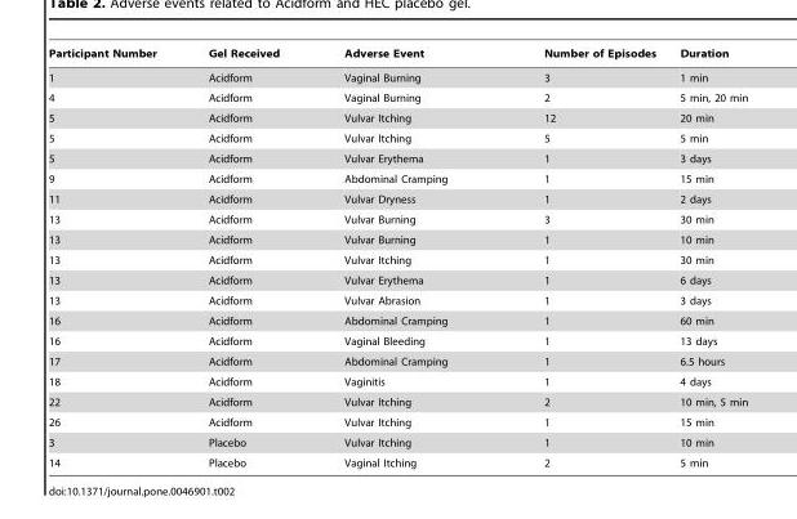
<table><thead><tr><td>Participant Number</td><td>Gel Received</td><td>Adverse Event</td><td>Number of Episodes</td><td>Duration</td></tr></thead><tbody><tr><td>1</td><td>Acidform</td><td>Vaginal Burning</td><td>3</td><td>1 min</td></tr><tr><td>4</td><td>Acidform</td><td>Vaginal Burning</td><td>2</td><td>5 min, 20 min</td></tr><tr><td>5</td><td>Acidform</td><td>Vulvar Itching</td><td>12</td><td>20 min</td></tr><tr><td>5</td><td>Acidform</td><td>Vulvar Itching</td><td>5</td><td>5 min</td></tr><tr><td>5</td><td>Acidform</td><td>Vulvar Erythema</td><td>1</td><td>3 days</td></tr><tr><td>9</td><td>Acidform</td><td>Abdominal Cramping</td><td>1</td><td>15 min</td></tr><tr><td>11</td><td>Acidform</td><td>Vulvar Dryness</td><td>1</td><td>2 days</td></tr><tr><td>13</td><td>Acidform</td><td>Vulvar Burning</td><td>3</td><td>30 min</td></tr><tr><td>13</td><td>Acidform</td><td>Vulvar Burning</td><td>1</td><td>10 min</td></tr><tr><td>13</td><td>Acidform</td><td>Vulvar Itching</td><td>1</td><td>30 min</td></tr><tr><td>13</td><td>Acidform</td><td>Vulvar Erythema</td><td>1</td><td>6 days</td></tr><tr><td>13</td><td>Acidform</td><td>Vulvar Abrasion</td><td>1</td><td>3 days</td></tr><tr><td>16</td><td>Acidform</td><td>Abdominal Cramping</td><td>1</td><td>60 min</td></tr><tr><td>16</td><td>Acidform</td><td>Vaginal Bleeding</td><td>1</td><td>13 days</td></tr><tr><td>17</td><td>Acidform</td><td>Abdominal Cramping</td><td>1</td><td>6.5 hours</td></tr><tr><td>18</td><td>Acidform</td><td>Vaginitis</td><td>1</td><td>4 days</td></tr><tr><td>22</td><td>Acidform</td><td>Vulvar Itching</td><td>2</td><td>10 min, 5 min</td></tr><tr><td>26</td><td>Acidform</td><td>Vulvar Itching</td><td>1</td><td>15 min</td></tr><tr><td>3</td><td>Placebo</td><td>Vulvar Itching</td><td>1</td><td>10 min</td></tr><tr><td>14</td><td>Placebo</td><td>Vaginal Itching</td><td>2</td><td>5 min</td></tr></tbody></table>